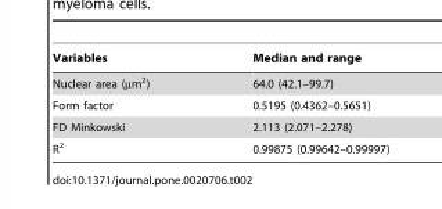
<table><thead><tr><td>Variables</td><td>Median and range</td></tr></thead><tbody><tr><td>Nuclear area (µm<sup>2</sup>)</td><td>64.0 (42.1–99.7)</td></tr><tr><td>Form factor</td><td>0.5195 (0.4362–0.5651)</td></tr><tr><td>FD Minkowski</td><td>2.113 (2.071–2.278)</td></tr><tr><td>R<sup>2</sup></td><td>0.99875 (0.99642–0.99997)</td></tr></tbody></table>